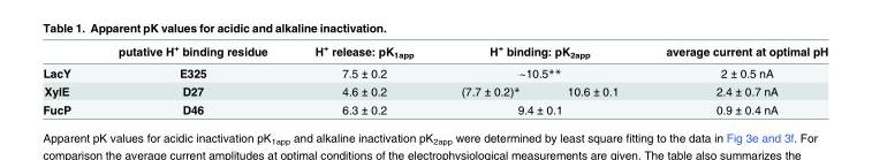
<table><thead><tr><td rowspan="3">LacY XylE</td><td rowspan="3">putative H<sup>+</sup> binding residue E325 D27</td><td rowspan="3">H<sup>+</sup> release: pK<sub>1app</sub> 7.5 ± 0.2 4.6 ± 0.2</td><td rowspan="2" colspan="2">H<sup>+</sup> binding: pK<sub>2app</sub> ~10.5**</td><td rowspan="3">average current at optimal pH 2 ± 0.5 nA 2.4 ± 0.7 nA</td></tr><tr></tr><tr><td>(7.7 ± 0.2)*</td><td>10.6 ± 0.1</td></tr></thead><tbody><tr><td>FucP</td><td>D46</td><td>6.3 ± 0.2</td><td colspan="2">9.4 ± 0.1</td><td>0.9 ± 0.4 nA</td></tr></tbody></table>